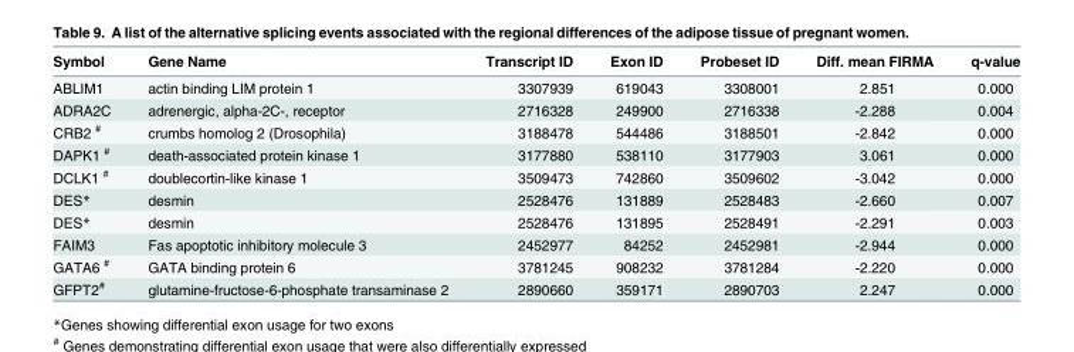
<table><thead><tr><td>Symbol</td><td>Gene Name</td><td>Transcript ID</td><td>Exon ID</td><td>Probeset ID</td><td>Diff. mean FIRMA</td><td>q-value</td></tr></thead><tbody><tr><td>ABLIM1</td><td>actin binding LIM protein 1</td><td>3307939</td><td>619043</td><td>3308001</td><td>2.851</td><td>0.000</td></tr><tr><td>ADRA2C</td><td>adrenergic, alpha-2C-, receptor</td><td>2716328</td><td>249900</td><td>2716338</td><td>-2.288</td><td>0.004</td></tr><tr><td>CRB2 <sup>#</sup></td><td>crumbs homolog 2 (Drosophila)</td><td>3188478</td><td>544486</td><td>3188501</td><td>-2.842</td><td>0.000</td></tr><tr><td>DAPK1 <sup>#</sup></td><td>death-associated protein kinase 1</td><td>3177880</td><td>538110</td><td>3177903</td><td>3.061</td><td>0.000</td></tr><tr><td>DCLK1 <sup>#</sup></td><td>doublecortin-like kinase 1</td><td>3509473</td><td>742860</td><td>3509602</td><td>-3.042</td><td>0.000</td></tr><tr><td>DES*</td><td>desmin</td><td>2528476</td><td>131889</td><td>2528483</td><td>-2.660</td><td>0.007</td></tr><tr><td>DES*</td><td>desmin</td><td>2528476</td><td>131895</td><td>2528491</td><td>-2.291</td><td>0.003</td></tr><tr><td>FAIM3</td><td>Fas apoptotic inhibitory molecule 3</td><td>2452977</td><td>84252</td><td>2452981</td><td>-2.944</td><td>0.000</td></tr><tr><td>GATA6 <sup>#</sup></td><td>GATA binding protein 6</td><td>3781245</td><td>908232</td><td>3781284</td><td>-2.220</td><td>0.000</td></tr><tr><td>GFPT2<sup>#</sup></td><td>glutamine-fructose-6-phosphate transaminase 2</td><td>2890660</td><td>359171</td><td>2890703</td><td>2.247</td><td>0.000</td></tr></tbody></table>